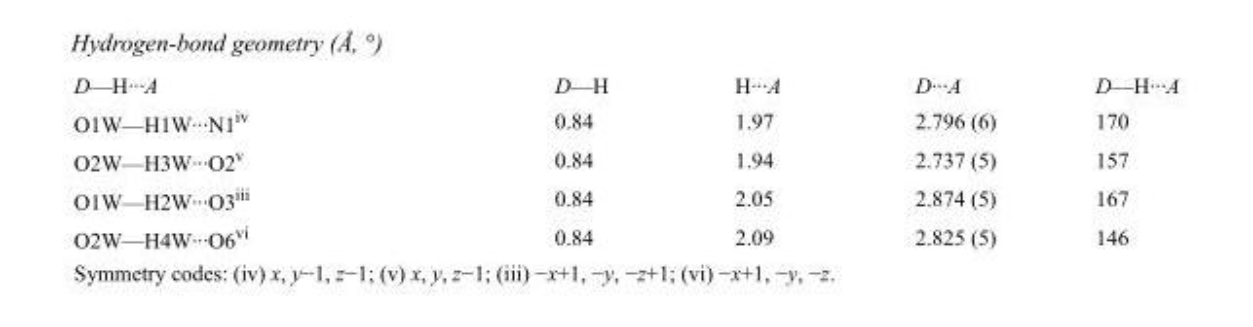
<table><tbody><tr><td>D—H···A</td><td>D—H</td><td>H···A</td><td>D···A</td><td>D—H···A</td></tr><tr><td>O1W—H1W···N1<sup>iv</sup></td><td>0.84</td><td>1.97</td><td>2.796 (6)</td><td>170</td></tr><tr><td>O2W—H3W···O2<sup>v</sup></td><td>0.84</td><td>1.94</td><td>2.737 (5)</td><td>157</td></tr><tr><td>O1W—H2W···O3<sup>iii</sup></td><td>0.84</td><td>2.05</td><td>2.874 (5)</td><td>167</td></tr><tr><td>O2W—H4W···O6<sup>vi</sup></td><td>0.84</td><td>2.09</td><td>2.825 (5)</td><td>146</td></tr></tbody></table>